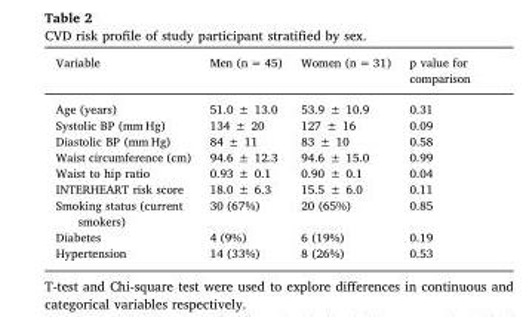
<table><thead><tr><td>Variable</td><td>Men (n = 45)</td><td>Women (n = 31)</td><td>p value for comparison</td></tr></thead><tbody><tr><td>Age (years)</td><td>51.0 ± 13.0</td><td>53.9 ± 10.9</td><td>0.31</td></tr><tr><td>Systolic BP (mm Hg)</td><td>134 ± 20</td><td>127 ± 16</td><td>0.09</td></tr><tr><td>Diastolic BP (mm Hg)</td><td>84 ± 11</td><td>83 ± 10</td><td>0.58</td></tr><tr><td>Waist circumference (cm)</td><td>94.6 ± 12.3</td><td>94.6 ± 15.0</td><td>0.99</td></tr><tr><td>Waist to hip ratio</td><td>0.93 ± 0.1</td><td>0.90 ± 0.1</td><td>0.04</td></tr><tr><td>INTERHEART risk score</td><td>18.0 ± 6.3</td><td>15.5 ± 6.0</td><td>0.11</td></tr><tr><td>Smoking status (current smokers)</td><td>30 (67%)</td><td>20 (65%)</td><td>0.85</td></tr><tr><td>Diabetes</td><td>4 (9%)</td><td>6 (19%)</td><td>0.19</td></tr><tr><td>Hypertension</td><td>14 (33%)</td><td>8 (26%)</td><td>0.53</td></tr></tbody></table>